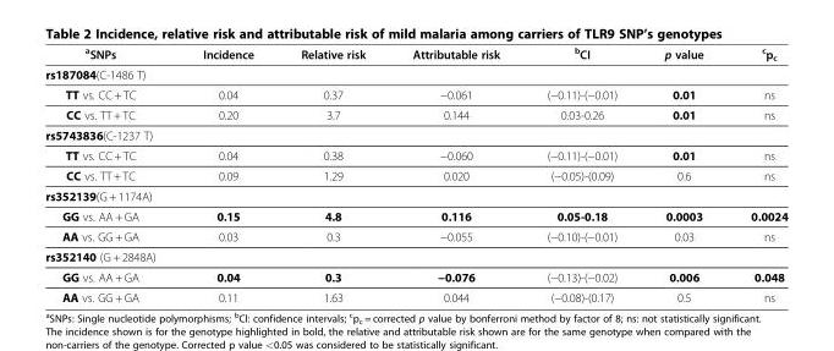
<table><thead><tr><td><sup>a</sup>SNPs</td><td>Incidence</td><td>Relative risk</td><td>Attributable risk</td><td><sup>b</sup>CI</td><td>p value</td><td><sup>c</sup>p<sub>c</sub></td></tr></thead><tbody><tr><td colspan="7">rs187084(C-1486 T)</td></tr><tr><td>TT vs. CC + TC</td><td>0.04</td><td>0.37</td><td>−0.061</td><td>(−0.11)-(−0.01)</td><td>0.01</td><td>ns</td></tr><tr><td>CC vs. TT + TC</td><td>0.20</td><td>3.7</td><td>0.144</td><td>0.03-0.26</td><td>0.01</td><td>ns</td></tr><tr><td colspan="7">rs5743836(C-1237 T)</td></tr><tr><td>TT vs. CC + TC</td><td>0.04</td><td>0.38</td><td>−0.060</td><td>(−0.11)-(−0.01)</td><td>0.01</td><td>ns</td></tr><tr><td>CC vs. TT + TC</td><td>0.09</td><td>1.29</td><td>0.020</td><td>(−0.05)-(0.09)</td><td>0.6</td><td>ns</td></tr><tr><td colspan="7">rs352139(G + 1174A)</td></tr><tr><td>GG vs. AA + GA</td><td>0.15</td><td>4.8</td><td>0.116</td><td>0.05-0.18</td><td>0.0003</td><td>0.0024</td></tr><tr><td>AA vs. GG + GA</td><td>0.03</td><td>0.3</td><td>−0.055</td><td>(−0.10)-(−0.01)</td><td>0.03</td><td>ns</td></tr><tr><td colspan="7">rs352140 (G + 2848A)</td></tr><tr><td>GG vs. AA + GA</td><td>0.04</td><td>0.3</td><td>−0.076</td><td>(−0.13)-(−0.02)</td><td>0.006</td><td>0.048</td></tr><tr><td>AA vs. GG + GA</td><td>0.11</td><td>1.63</td><td>0.044</td><td>(−0.08)-(0.17)</td><td>0.5</td><td>ns</td></tr></tbody></table>